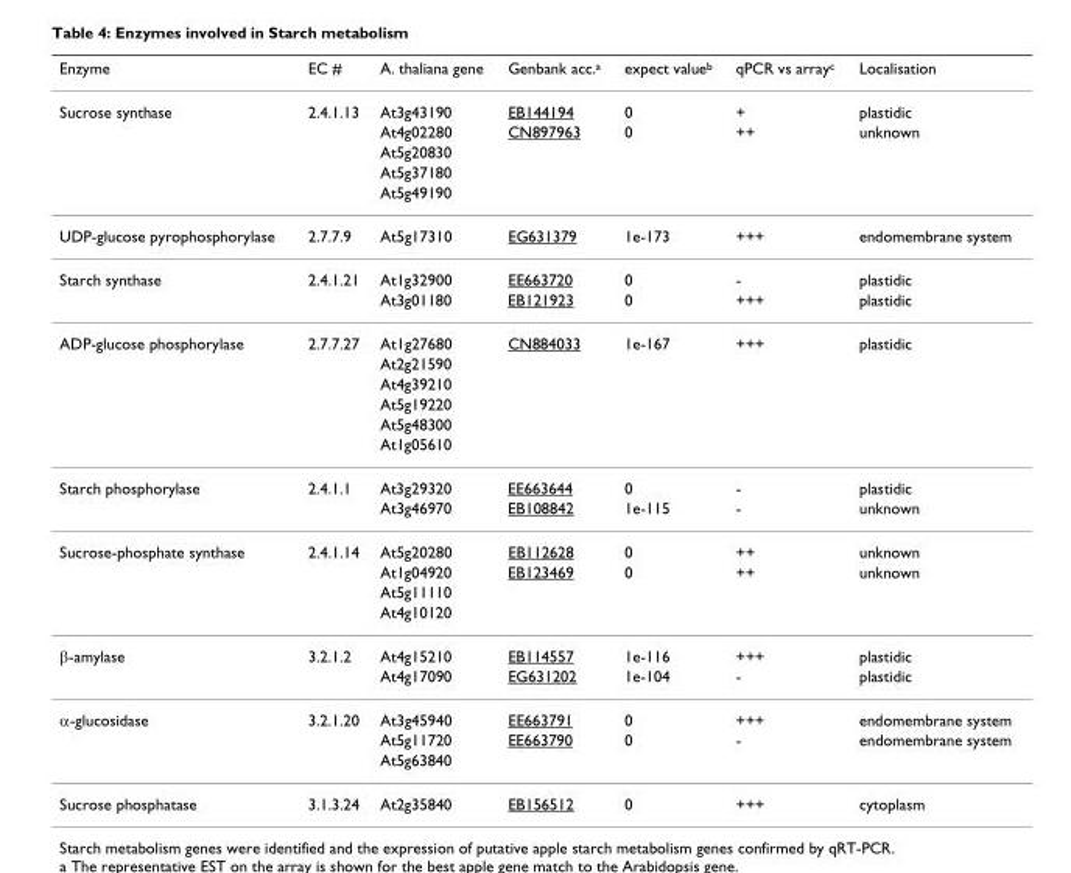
<table><thead><tr><td>Enzyme</td><td>EC #</td><td>A. thaliana gene</td><td>Genbank acc.<sup>a</sup></td><td>expect value<sup>b</sup></td><td>qPCR vs array<sup>c</sup></td><td>Localisation</td></tr></thead><tbody><tr><td rowspan="5">Sucrose synthase</td><td>2.4.1.13</td><td>At3g43190</td><td>EB144194</td><td>0</td><td>+</td><td>plastidic</td></tr><tr><td></td><td>At4g02280</td><td>CN897963</td><td>0</td><td>++</td><td>unknown</td></tr><tr><td></td><td>At5g20830</td><td></td><td></td><td></td><td></td></tr><tr><td></td><td>At5g37180</td><td></td><td></td><td></td><td></td></tr><tr><td></td><td>At5g49190</td><td></td><td></td><td></td><td></td></tr><tr><td>UDP-glucose pyrophosphorylase</td><td>2.7.7.9</td><td>At5g17310</td><td>EG631379</td><td>1e-173</td><td>+++</td><td>endomembrane system</td></tr><tr><td rowspan="2">Starch synthase</td><td>2.4.1.21</td><td>At1g32900</td><td>EE663720</td><td>0</td><td>-</td><td>plastidic</td></tr><tr><td></td><td>At3g01180</td><td>EB121923</td><td>0</td><td>+++</td><td>plastidic</td></tr><tr><td rowspan="6">ADP-glucose phosphorylase</td><td>2.7.7.27</td><td>At1g27680</td><td>CN884033</td><td>1e-167</td><td>+++</td><td>plastidic</td></tr><tr><td></td><td>At2g21590</td><td></td><td></td><td></td><td></td></tr><tr><td></td><td>At4g39210</td><td></td><td></td><td></td><td></td></tr><tr><td></td><td>At5g19220</td><td></td><td></td><td></td><td></td></tr><tr><td></td><td>At5g48300</td><td></td><td></td><td></td><td></td></tr><tr><td></td><td>At1g05610</td><td></td><td></td><td></td><td></td></tr><tr><td rowspan="2">Starch phosphorylase</td><td>2.4.1.1</td><td>At3g29320</td><td>EE663644</td><td>0</td><td>-</td><td>plastidic</td></tr><tr><td></td><td>At3g46970</td><td>EB108842</td><td>1e-115</td><td>-</td><td>unknown</td></tr><tr><td rowspan="4">Sucrose-phosphate synthase</td><td>2.4.1.14</td><td>At5g20280</td><td>EB112628</td><td>0</td><td>++</td><td>unknown</td></tr><tr><td></td><td>At1g04920</td><td>EB123469</td><td>0</td><td>++</td><td>unknown</td></tr><tr><td></td><td>At5g11110</td><td></td><td></td><td></td><td></td></tr><tr><td></td><td>At4g10120</td><td></td><td></td><td></td><td></td></tr><tr><td rowspan="2">β-amylase</td><td>3.2.1.2</td><td>At4g15210</td><td>EB114557</td><td>1e-116</td><td>+++</td><td>plastidic</td></tr><tr><td></td><td>At4g17090</td><td>EG631202</td><td>1e-104</td><td>-</td><td>plastidic</td></tr><tr><td rowspan="3">α-glucosidase</td><td>3.2.1.20</td><td>At3g45940</td><td>EE663791</td><td>0</td><td>+++</td><td>endomembrane system</td></tr><tr><td></td><td>At5g11720</td><td>EE663790</td><td>0</td><td>-</td><td>endomembrane system</td></tr><tr><td></td><td>At5g63840</td><td></td><td></td><td></td><td></td></tr><tr><td>Sucrose phosphatase</td><td>3.1.3.24</td><td>At2g35840</td><td>EB156512</td><td>0</td><td>+++</td><td>cytoplasm</td></tr></tbody></table>